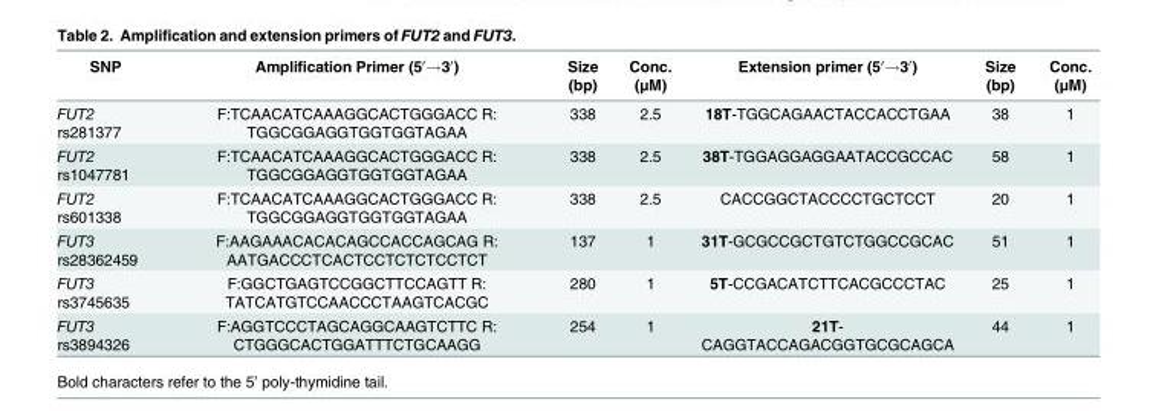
<table><thead><tr><td>SNP</td><td>Amplification Primer (5′→3′)</td><td>Size (bp)</td><td>Conc. (μM)</td><td>Extension primer (5′→3′)</td><td>Size (bp)</td><td>Conc. (μM)</td></tr></thead><tbody><tr><td>FUT2 rs281377</td><td>F:TCAACATCAAAGGCACTGGGACC R: TGGCGGAGGTGGTGGTAGAA</td><td>338</td><td>2.5</td><td>18T-TGGCAGAACTACCACCTGAA</td><td>38</td><td>1</td></tr><tr><td>FUT2 rs1047781</td><td>F:TCAACATCAAAGGCACTGGGACC R: TGGCGGAGGTGGTGGTAGAA</td><td>338</td><td>2.5</td><td>38T-TGGAGGAGGAATACCGCCAC</td><td>58</td><td>1</td></tr><tr><td>FUT2 rs601338</td><td>F:TCAACATCAAAGGCACTGGGACC R: TGGCGGAGGTGGTGGTAGAA</td><td>338</td><td>2.5</td><td>CACCGGCTACCCCTGCTCCT</td><td>20</td><td>1</td></tr><tr><td>FUT3 rs28362459</td><td>F:AAGAAACACACAGCCACCAGCAG R: AATGACCCTCACTCCTCTCTCCTCT</td><td>137</td><td>1</td><td>31T-GCGCCGCTGTCTGGCCGCAC</td><td>51</td><td>1</td></tr><tr><td>FUT3 rs3745635</td><td>F:GGCTGAGTCCGGCTTCCAGTT R: TATCATGTCCAACCCTAAGTCACGC</td><td>280</td><td>1</td><td>5T-CCGACATCTTCACGCCCTAC</td><td>25</td><td>1</td></tr><tr><td>FUT3 rs3894326</td><td>F:AGGTCCCTAGCAGGCAAGTCTTC R: CTGGGCACTGGATTTCTGCAAGG</td><td>254</td><td>1</td><td>21T- CAGGTACCAGACGGTGCGCAGCA</td><td>44</td><td>1</td></tr></tbody></table>